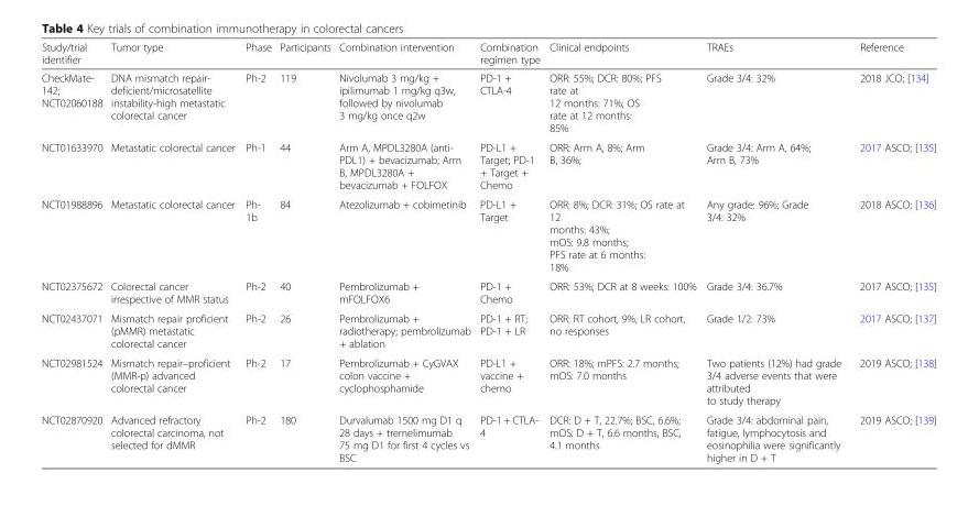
<table><thead><tr><td>Study/trial identifier</td><td>Tumor type</td><td>Phase</td><td>Participants</td><td>Combination intervention</td><td>Combination regimen type</td><td>Clinical endpoints</td><td>TRAEs</td><td>Reference</td></tr></thead><tbody><tr><td>CheckMate- 142; NCT02060188</td><td>DNA mismatch repair- deficient/microsatellite instability-high metastatic colorectal cancer</td><td>Ph-2</td><td>119</td><td>Nivolumab 3 mg/kg + ipilimumab 1 mg/kg q3w, followed by nivolumab 3 mg/kg once q2w</td><td>PD-1 + CTLA-4</td><td>ORR: 55%; DCR: 80%; PFS rate at 12 months: 71%; OS rate at 12 months: 85%</td><td>Grade 3/4: 32%</td><td>2018 JCO; [134]</td></tr><tr><td>NCT01633970</td><td>Metastatic colorectal cancer</td><td>Ph-1</td><td>44</td><td>Arm A, MPDL3280A (anti- PDL1) + bevacizumab; Arm B, MPDL3280A + bevacizumab + FOLFOX</td><td>PD-L1 + Target; PD-1 + Target + Chemo</td><td>ORR: Arm A, 8%; Arm B, 36%;</td><td>Grade 3/4: Arm A, 64%; Arm B, 73%</td><td>2017 ASCO; [135]</td></tr><tr><td>NCT01988896</td><td>Metastatic colorectal cancer</td><td>Ph- 1b</td><td>84</td><td>Atezolizumab + cobimetinib</td><td>PD-L1 + Target</td><td>ORR: 8%; DCR: 31%; OS rate at 12 months: 43%; mOS: 9.8 months; PFS rate at 6 months: 18%</td><td>Any grade: 96%; Grade 3/4: 32%</td><td>2018 ASCO; [136]</td></tr><tr><td>NCT02375672</td><td>Colorectal cancer irrespective of MMR status</td><td>Ph-2</td><td>40</td><td>Pembrolizumab + mFOLFOX6</td><td>PD-1 + Chemo</td><td>ORR: 53%; DCR at 8 weeks: 100%</td><td>Grade 3/4: 36.7%</td><td>2017 ASCO; [135]</td></tr><tr><td>NCT02437071</td><td>Mismatch repair proficient (pMMR) metastatic colorectal cancer</td><td>Ph-2</td><td>26</td><td>Pembrolizumab + radiotherapy; pembrolizumab + ablation</td><td>PD-1 + RT; PD-1 + LR</td><td>ORR: RT cohort, 9%; LR cohort, no responses</td><td>Grade 1/2: 73%</td><td>2017 ASCO; [137]</td></tr><tr><td>NCT02981524</td><td>Mismatch repair–proficient (MMR-p) advanced colorectal cancer</td><td>Ph-2</td><td>17</td><td>Pembrolizumab + CyGVAX colon vaccine + cyclophosphamide</td><td>PD-L1 + vaccine + chemo</td><td>ORR: 18%; mPFS: 2.7 months; mOS: 7.0 months</td><td>Two patients (12%) had grade 3/4 adverse events that were attributed to study therapy</td><td>2019 ASCO; [138]</td></tr><tr><td>NCT02870920</td><td>Advanced refractory colorectal carcinoma, not selected for dMMR</td><td>Ph-2</td><td>180</td><td>Durvalumab 1500 mg D1 q 28 days + tremelimumab 75 mg D1 for first 4 cycles vs BSC</td><td>PD-1 + CTLA- 4</td><td>DCR: D + T, 22.7%; BSC, 6.6%; mOS: D + T, 6.6 months, BSC, 4.1 months</td><td>Grade 3/4: abdominal pain, fatigue, lymphocytosis and eosinophilia were significantly higher in D + T</td><td>2019 ASCO; [139]</td></tr></tbody></table>